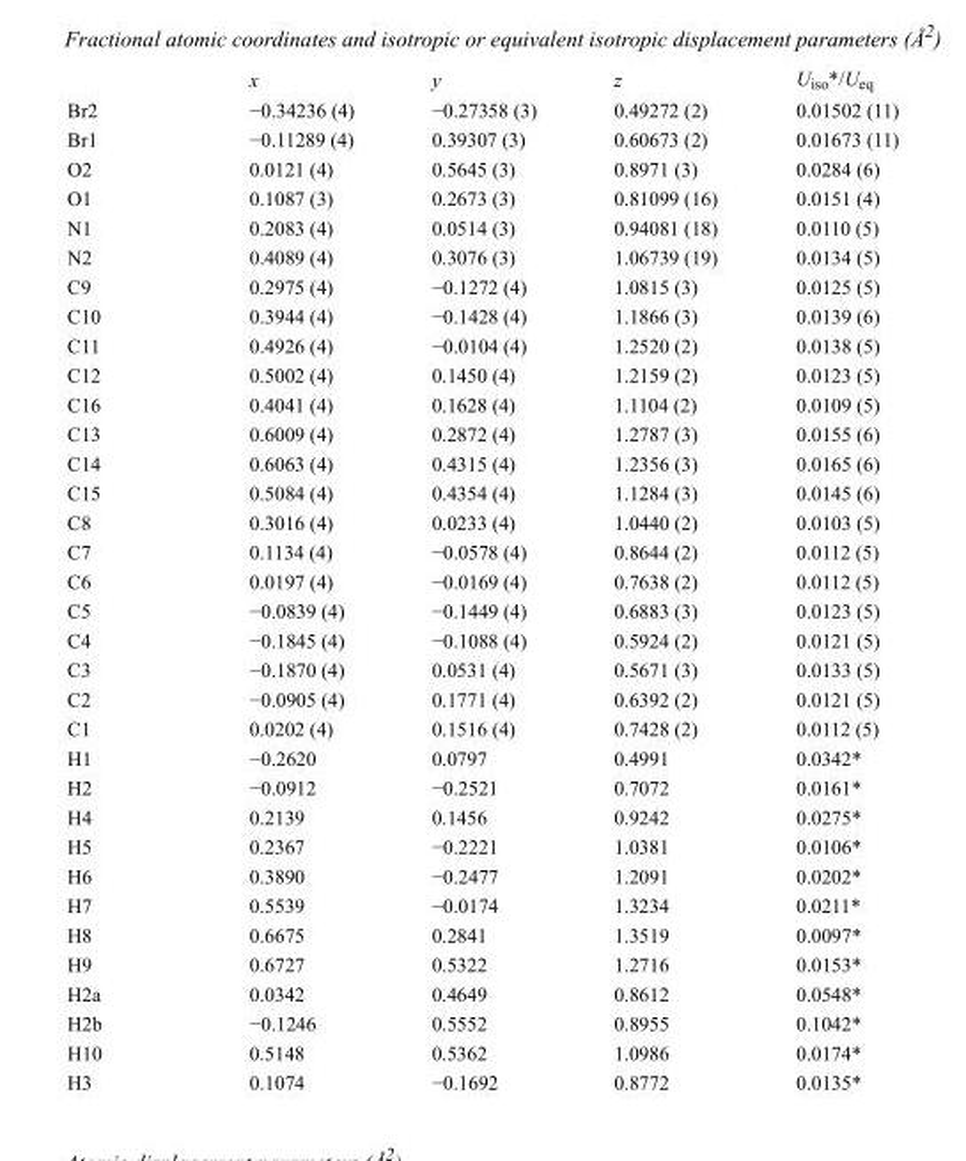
<table><thead><tr><td></td><td>x</td><td>y</td><td>z</td><td>U<sub>iso</sub>*/U<sub>eq</sub></td></tr></thead><tbody><tr><td>Br2</td><td>−0.34236 (4)</td><td>−0.27358 (3)</td><td>0.49272 (2)</td><td>0.01502 (11)</td></tr><tr><td>Br1</td><td>−0.11289 (4)</td><td>0.39307 (3)</td><td>0.60673 (2)</td><td>0.01673 (11)</td></tr><tr><td>O2</td><td>0.0121 (4)</td><td>0.5645 (3)</td><td>0.8971 (3)</td><td>0.0284 (6)</td></tr><tr><td>O1</td><td>0.1087 (3)</td><td>0.2673 (3)</td><td>0.81099 (16)</td><td>0.0151 (4)</td></tr><tr><td>N1</td><td>0.2083 (4)</td><td>0.0514 (3)</td><td>0.94081 (18)</td><td>0.0110 (5)</td></tr><tr><td>N2</td><td>0.4089 (4)</td><td>0.3076 (3)</td><td>1.06739 (19)</td><td>0.0134 (5)</td></tr><tr><td>C9</td><td>0.2975 (4)</td><td>−0.1272 (4)</td><td>1.0815 (3)</td><td>0.0125 (5)</td></tr><tr><td>C10</td><td>0.3944 (4)</td><td>−0.1428 (4)</td><td>1.1866 (3)</td><td>0.0139 (6)</td></tr><tr><td>C11</td><td>0.4926 (4)</td><td>−0.0104 (4)</td><td>1.2520 (2)</td><td>0.0138 (5)</td></tr><tr><td>C12</td><td>0.5002 (4)</td><td>0.1450 (4)</td><td>1.2159 (2)</td><td>0.0123 (5)</td></tr><tr><td>C16</td><td>0.4041 (4)</td><td>0.1628 (4)</td><td>1.1104 (2)</td><td>0.0109 (5)</td></tr><tr><td>C13</td><td>0.6009 (4)</td><td>0.2872 (4)</td><td>1.2787 (3)</td><td>0.0155 (6)</td></tr><tr><td>C14</td><td>0.6063 (4)</td><td>0.4315 (4)</td><td>1.2356 (3)</td><td>0.0165 (6)</td></tr><tr><td>C15</td><td>0.5084 (4)</td><td>0.4354 (4)</td><td>1.1284 (3)</td><td>0.0145 (6)</td></tr><tr><td>C8</td><td>0.3016 (4)</td><td>0.0233 (4)</td><td>1.0440 (2)</td><td>0.0103 (5)</td></tr><tr><td>C7</td><td>0.1134 (4)</td><td>−0.0578 (4)</td><td>0.8644 (2)</td><td>0.0112 (5)</td></tr><tr><td>C6</td><td>0.0197 (4)</td><td>−0.0169 (4)</td><td>0.7638 (2)</td><td>0.0112 (5)</td></tr><tr><td>C5</td><td>−0.0839 (4)</td><td>−0.1449 (4)</td><td>0.6883 (3)</td><td>0.0123 (5)</td></tr><tr><td>C4</td><td>−0.1845 (4)</td><td>−0.1088 (4)</td><td>0.5924 (2)</td><td>0.0121 (5)</td></tr><tr><td>C3</td><td>−0.1870 (4)</td><td>0.0531 (4)</td><td>0.5671 (3)</td><td>0.0133 (5)</td></tr><tr><td>C2</td><td>−0.0905 (4)</td><td>0.1771 (4)</td><td>0.6392 (2)</td><td>0.0121 (5)</td></tr><tr><td>C1</td><td>0.0202 (4)</td><td>0.1516 (4)</td><td>0.7428 (2)</td><td>0.0112 (5)</td></tr><tr><td>H1</td><td>−0.2620</td><td>0.0797</td><td>0.4991</td><td>0.0342*</td></tr><tr><td>H2</td><td>−0.0912</td><td>−0.2521</td><td>0.7072</td><td>0.0161*</td></tr><tr><td>H4</td><td>0.2139</td><td>0.1456</td><td>0.9242</td><td>0.0275*</td></tr><tr><td>H5</td><td>0.2367</td><td>−0.2221</td><td>1.0381</td><td>0.0106*</td></tr><tr><td>H6</td><td>0.3890</td><td>−0.2477</td><td>1.2091</td><td>0.0202*</td></tr><tr><td>H7</td><td>0.5539</td><td>−0.0174</td><td>1.3234</td><td>0.0211*</td></tr><tr><td>H8</td><td>0.6675</td><td>0.2841</td><td>1.3519</td><td>0.0097*</td></tr><tr><td>H9</td><td>0.6727</td><td>0.5322</td><td>1.2716</td><td>0.0153*</td></tr><tr><td>H2a</td><td>0.0342</td><td>0.4649</td><td>0.8612</td><td>0.0548*</td></tr><tr><td>H2b</td><td>−0.1246</td><td>0.5552</td><td>0.8955</td><td>0.1042*</td></tr><tr><td>H10</td><td>0.5148</td><td>0.5362</td><td>1.0986</td><td>0.0174*</td></tr><tr><td>H3</td><td>0.1074</td><td>−0.1692</td><td>0.8772</td><td>0.0135*</td></tr></tbody></table>